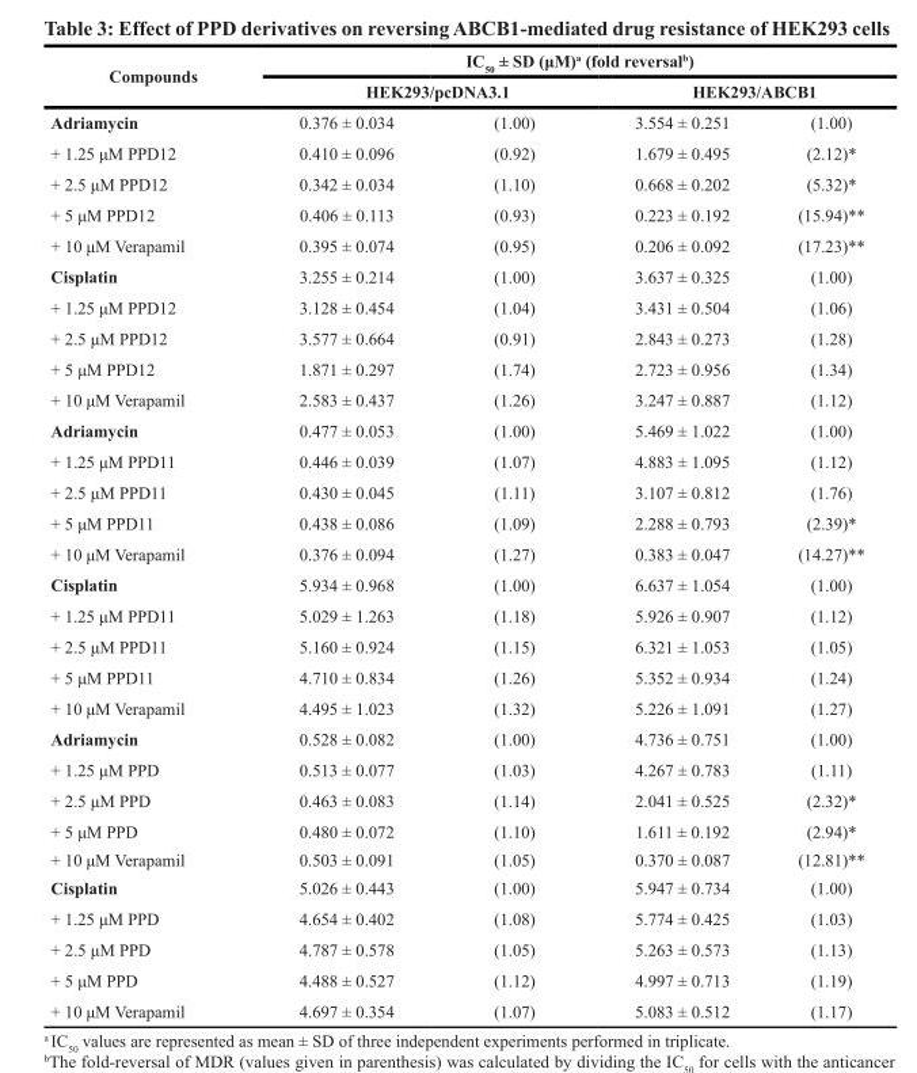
<table><thead><tr><td rowspan="3">Compounds Adriamycin</td><td colspan="4">IC<sub>50</sub> ± SD (μM)<sup>a</sup> (fold reversal<sup>b</sup>)</td></tr><tr><td colspan="2">HEK293/pcDNA3.1</td><td colspan="2">HEK293/ABCB1</td></tr><tr><td>0.376 ± 0.034</td><td>(1.00)</td><td>3.554 ± 0.251</td><td>(1.00)</td></tr></thead><tbody><tr><td>+ 1.25 μM PPD12</td><td>0.410 ± 0.096</td><td>(0.92)</td><td>1.679 ± 0.495</td><td>(2.12)*</td></tr><tr><td>+ 2.5 μM PPD12</td><td>0.342 ± 0.034</td><td>(1.10)</td><td>0.668 ± 0.202</td><td>(5.32)*</td></tr><tr><td>+ 5 μM PPD12</td><td>0.406 ± 0.113</td><td>(0.93)</td><td>0.223 ± 0.192</td><td>(15.94)**</td></tr><tr><td>+ 10 μM Verapamil</td><td>0.395 ± 0.074</td><td>(0.95)</td><td>0.206 ± 0.092</td><td>(17.23)**</td></tr><tr><td>Cisplatin</td><td>3.255 ± 0.214</td><td>(1.00)</td><td>3.637 ± 0.325</td><td>(1.00)</td></tr><tr><td>+ 1.25 μM PPD12</td><td>3.128 ± 0.454</td><td>(1.04)</td><td>3.431 ± 0.504</td><td>(1.06)</td></tr><tr><td>+ 2.5 μM PPD12</td><td>3.577 ± 0.664</td><td>(0.91)</td><td>2.843 ± 0.273</td><td>(1.28)</td></tr><tr><td>+ 5 μM PPD12</td><td>1.871 ± 0.297</td><td>(1.74)</td><td>2.723 ± 0.956</td><td>(1.34)</td></tr><tr><td>+ 10 μM Verapamil</td><td>2.583 ± 0.437</td><td>(1.26)</td><td>3.247 ± 0.887</td><td>(1.12)</td></tr><tr><td>Adriamycin</td><td>0.477 ± 0.053</td><td>(1.00)</td><td>5.469 ± 1.022</td><td>(1.00)</td></tr><tr><td>+ 1.25 μM PPD11</td><td>0.446 ± 0.039</td><td>(1.07)</td><td>4.883 ± 1.095</td><td>(1.12)</td></tr><tr><td>+ 2.5 μM PPD11</td><td>0.430 ± 0.045</td><td>(1.11)</td><td>3.107 ± 0.812</td><td>(1.76)</td></tr><tr><td>+ 5 μM PPD11</td><td>0.438 ± 0.086</td><td>(1.09)</td><td>2.288 ± 0.793</td><td>(2.39)*</td></tr><tr><td>+ 10 μM Verapamil</td><td>0.376 ± 0.094</td><td>(1.27)</td><td>0.383 ± 0.047</td><td>(14.27)**</td></tr><tr><td>Cisplatin</td><td>5.934 ± 0.968</td><td>(1.00)</td><td>6.637 ± 1.054</td><td>(1.00)</td></tr><tr><td>+ 1.25 μM PPD11</td><td>5.029 ± 1.263</td><td>(1.18)</td><td>5.926 ± 0.907</td><td>(1.12)</td></tr><tr><td>+ 2.5 μM PPD11</td><td>5.160 ± 0.924</td><td>(1.15)</td><td>6.321 ± 1.053</td><td>(1.05)</td></tr><tr><td>+ 5 μM PPD11</td><td>4.710 ± 0.834</td><td>(1.26)</td><td>5.352 ± 0.934</td><td>(1.24)</td></tr><tr><td>+ 10 μM Verapamil</td><td>4.495 ± 1.023</td><td>(1.32)</td><td>5.226 ± 1.091</td><td>(1.27)</td></tr><tr><td>Adriamycin</td><td>0.528 ± 0.082</td><td>(1.00)</td><td>4.736 ± 0.751</td><td>(1.00)</td></tr><tr><td>+ 1.25 μM PPD</td><td>0.513 ± 0.077</td><td>(1.03)</td><td>4.267 ± 0.783</td><td>(1.11)</td></tr><tr><td>+ 2.5 μM PPD</td><td>0.463 ± 0.083</td><td>(1.14)</td><td>2.041 ± 0.525</td><td>(2.32)*</td></tr><tr><td>+ 5 μM PPD</td><td>0.480 ± 0.072</td><td>(1.10)</td><td>1.611 ± 0.192</td><td>(2.94)*</td></tr><tr><td>+ 10 μM Verapamil</td><td>0.503 ± 0.091</td><td>(1.05)</td><td>0.370 ± 0.087</td><td>(12.81)**</td></tr><tr><td>Cisplatin</td><td>5.026 ± 0.443</td><td>(1.00)</td><td>5.947 ± 0.734</td><td>(1.00)</td></tr><tr><td>+ 1.25 μM PPD</td><td>4.654 ± 0.402</td><td>(1.08)</td><td>5.774 ± 0.425</td><td>(1.03)</td></tr><tr><td>+ 2.5 μM PPD</td><td>4.787 ± 0.578</td><td>(1.05)</td><td>5.263 ± 0.573</td><td>(1.13)</td></tr><tr><td>+ 5 μM PPD</td><td>4.488 ± 0.527</td><td>(1.12)</td><td>4.997 ± 0.713</td><td>(1.19)</td></tr><tr><td>+ 10 μM Verapamil</td><td>4.697 ± 0.354</td><td>(1.07)</td><td>5.083 ± 0.512</td><td>(1.17)</td></tr></tbody></table>